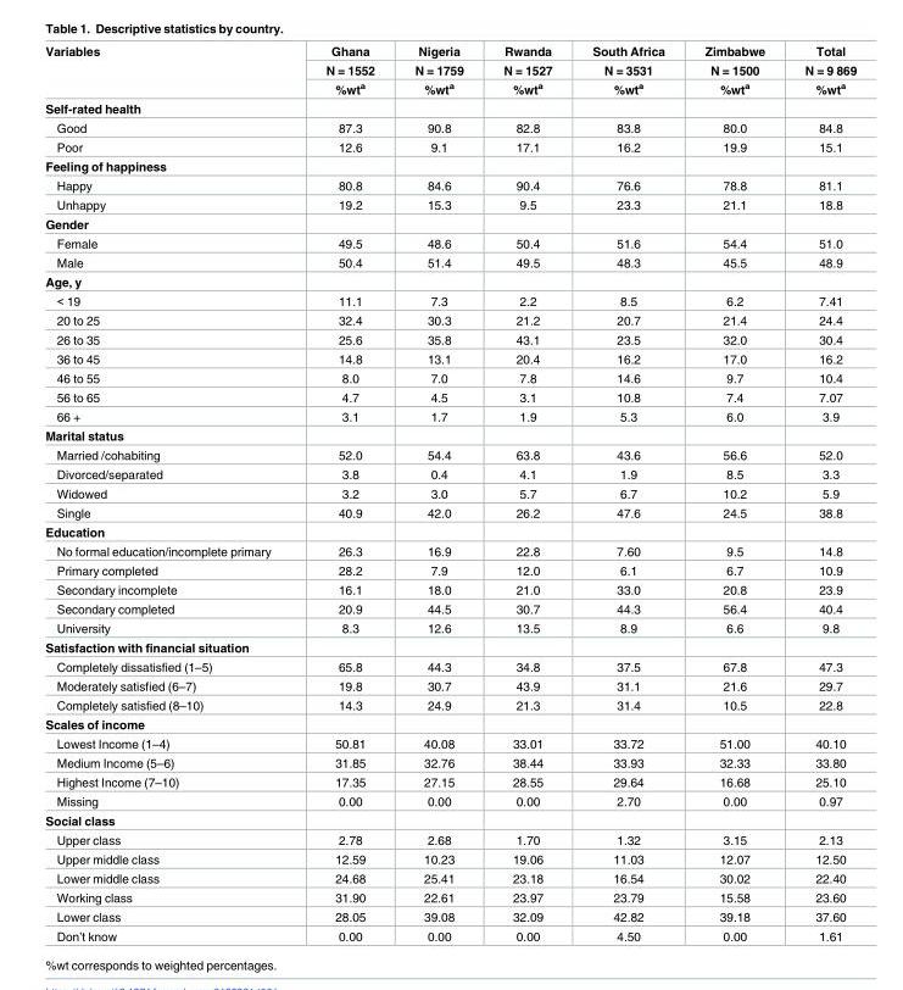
<table><thead><tr><td rowspan="3">Variables</td><td rowspan="3">Ghana N = 1552 %wt<sup>a</sup></td><td rowspan="3">Nigeria N = 1759 %wt<sup>a</sup></td><td rowspan="3">Rwanda N = 1527 %wt<sup>a</sup></td><td rowspan="3">South Africa N = 3531 %wt<sup>a</sup></td><td rowspan="3">Zimbabwe N = 1500 %wt<sup>a</sup></td><td rowspan="3">Total N = 9 869 %wt<sup>a</sup></td></tr><tr></tr><tr></tr></thead><tbody><tr><td colspan="7">Self-rated health</td></tr><tr><td>Good</td><td>87.3</td><td>90.8</td><td>82.8</td><td>83.8</td><td>80.0</td><td>84.8</td></tr><tr><td>Poor</td><td>12.6</td><td>9.1</td><td>17.1</td><td>16.2</td><td>19.9</td><td>15.1</td></tr><tr><td colspan="7">Feeling of happiness</td></tr><tr><td>Happy</td><td>80.8</td><td>84.6</td><td>90.4</td><td>76.6</td><td>78.8</td><td>81.1</td></tr><tr><td>Unhappy</td><td>19.2</td><td>15.3</td><td>9.5</td><td>23.3</td><td>21.1</td><td>18.8</td></tr><tr><td colspan="7">Gender</td></tr><tr><td>Female</td><td>49.5</td><td>48.6</td><td>50.4</td><td>51.6</td><td>54.4</td><td>51.0</td></tr><tr><td>Male</td><td>50.4</td><td>51.4</td><td>49.5</td><td>48.3</td><td>45.5</td><td>48.9</td></tr><tr><td colspan="7">Age, y</td></tr><tr><td>&lt; 19</td><td>11.1</td><td>7.3</td><td>2.2</td><td>8.5</td><td>6.2</td><td>7.41</td></tr><tr><td>20 to 25</td><td>32.4</td><td>30.3</td><td>21.2</td><td>20.7</td><td>21.4</td><td>24.4</td></tr><tr><td>26 to 35</td><td>25.6</td><td>35.8</td><td>43.1</td><td>23.5</td><td>32.0</td><td>30.4</td></tr><tr><td>36 to 45</td><td>14.8</td><td>13.1</td><td>20.4</td><td>16.2</td><td>17.0</td><td>16.2</td></tr><tr><td>46 to 55</td><td>8.0</td><td>7.0</td><td>7.8</td><td>14.6</td><td>9.7</td><td>10.4</td></tr><tr><td>56 to 65</td><td>4.7</td><td>4.5</td><td>3.1</td><td>10.8</td><td>7.4</td><td>7.07</td></tr><tr><td>66 +</td><td>3.1</td><td>1.7</td><td>1.9</td><td>5.3</td><td>6.0</td><td>3.9</td></tr><tr><td colspan="7">Marital status</td></tr><tr><td>Married /cohabiting</td><td>52.0</td><td>54.4</td><td>63.8</td><td>43.6</td><td>56.6</td><td>52.0</td></tr><tr><td>Divorced/separated</td><td>3.8</td><td>0.4</td><td>4.1</td><td>1.9</td><td>8.5</td><td>3.3</td></tr><tr><td>Widowed</td><td>3.2</td><td>3.0</td><td>5.7</td><td>6.7</td><td>10.2</td><td>5.9</td></tr><tr><td>Single</td><td>40.9</td><td>42.0</td><td>26.2</td><td>47.6</td><td>24.5</td><td>38.8</td></tr><tr><td colspan="7">Education</td></tr><tr><td>No formal education/incomplete primary</td><td>26.3</td><td>16.9</td><td>22.8</td><td>7.60</td><td>9.5</td><td>14.8</td></tr><tr><td>Primary completed</td><td>28.2</td><td>7.9</td><td>12.0</td><td>6.1</td><td>6.7</td><td>10.9</td></tr><tr><td>Secondary incomplete</td><td>16.1</td><td>18.0</td><td>21.0</td><td>33.0</td><td>20.8</td><td>23.9</td></tr><tr><td>Secondary completed</td><td>20.9</td><td>44.5</td><td>30.7</td><td>44.3</td><td>56.4</td><td>40.4</td></tr><tr><td>University</td><td>8.3</td><td>12.6</td><td>13.5</td><td>8.9</td><td>6.6</td><td>9.8</td></tr><tr><td colspan="7">Satisfaction with financial situation</td></tr><tr><td>Completely dissatisfied (1–5)</td><td>65.8</td><td>44.3</td><td>34.8</td><td>37.5</td><td>67.8</td><td>47.3</td></tr><tr><td>Moderately satisfied (6–7)</td><td>19.8</td><td>30.7</td><td>43.9</td><td>31.1</td><td>21.6</td><td>29.7</td></tr><tr><td>Completely satisfied (8–10)</td><td>14.3</td><td>24.9</td><td>21.3</td><td>31.4</td><td>10.5</td><td>22.8</td></tr><tr><td colspan="7">Scales of income</td></tr><tr><td>Lowest Income (1–4)</td><td>50.81</td><td>40.08</td><td>33.01</td><td>33.72</td><td>51.00</td><td>40.10</td></tr><tr><td>Medium Income (5–6)</td><td>31.85</td><td>32.76</td><td>38.44</td><td>33.93</td><td>32.33</td><td>33.80</td></tr><tr><td>Highest Income (7–10)</td><td>17.35</td><td>27.15</td><td>28.55</td><td>29.64</td><td>16.68</td><td>25.10</td></tr><tr><td>Missing</td><td>0.00</td><td>0.00</td><td>0.00</td><td>2.70</td><td>0.00</td><td>0.97</td></tr><tr><td colspan="7">Social class</td></tr><tr><td>Upper class</td><td>2.78</td><td>2.68</td><td>1.70</td><td>1.32</td><td>3.15</td><td>2.13</td></tr><tr><td>Upper middle class</td><td>12.59</td><td>10.23</td><td>19.06</td><td>11.03</td><td>12.07</td><td>12.50</td></tr><tr><td>Lower middle class</td><td>24.68</td><td>25.41</td><td>23.18</td><td>16.54</td><td>30.02</td><td>22.40</td></tr><tr><td>Working class</td><td>31.90</td><td>22.61</td><td>23.97</td><td>23.79</td><td>15.58</td><td>23.60</td></tr><tr><td>Lower class</td><td>28.05</td><td>39.08</td><td>32.09</td><td>42.82</td><td>39.18</td><td>37.60</td></tr><tr><td>Don’t know</td><td>0.00</td><td>0.00</td><td>0.00</td><td>4.50</td><td>0.00</td><td>1.61</td></tr></tbody></table>